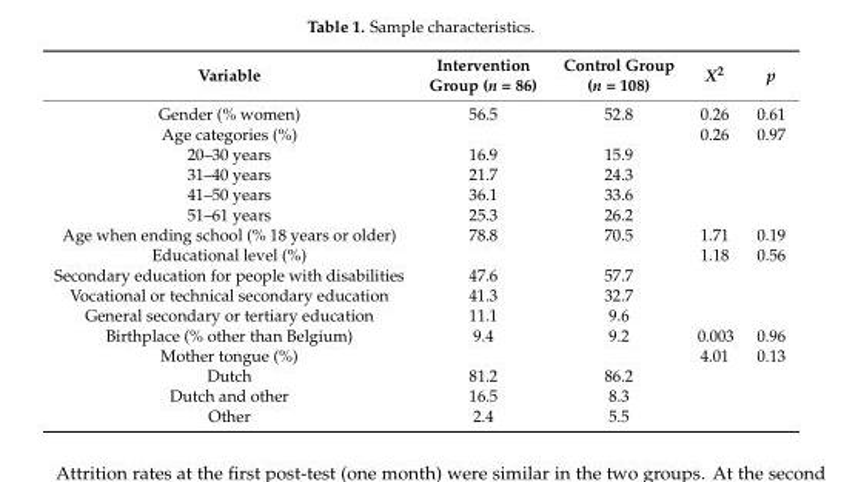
<table><thead><tr><td>Variable</td><td>Intervention Group (n = 86)</td><td>Control Group (n = 108)</td><td>X<sup>2</sup></td><td>p</td></tr></thead><tbody><tr><td>Gender (% women)</td><td>56.5</td><td>52.8</td><td>0.26</td><td>0.61</td></tr><tr><td>Age categories (%)</td><td></td><td></td><td>0.26</td><td>0.97</td></tr><tr><td>20–30 years</td><td>16.9</td><td>15.9</td><td></td><td></td></tr><tr><td>31–40 years</td><td>21.7</td><td>24.3</td><td></td><td></td></tr><tr><td>41–50 years</td><td>36.1</td><td>33.6</td><td></td><td></td></tr><tr><td>51–61 years</td><td>25.3</td><td>26.2</td><td></td><td></td></tr><tr><td>Age when ending school (% 18 years or older)</td><td>78.8</td><td>70.5</td><td>1.71</td><td>0.19</td></tr><tr><td>Educational level (%)</td><td></td><td></td><td>1.18</td><td>0.56</td></tr><tr><td>Secondary education for people with disabilities</td><td>47.6</td><td>57.7</td><td></td><td></td></tr><tr><td>Vocational or technical secondary education</td><td>41.3</td><td>32.7</td><td></td><td></td></tr><tr><td>General secondary or tertiary education</td><td>11.1</td><td>9.6</td><td></td><td></td></tr><tr><td>Birthplace (% other than Belgium)</td><td>9.4</td><td>9.2</td><td>0.003</td><td>0.96</td></tr><tr><td>Mother tongue (%)</td><td></td><td></td><td>4.01</td><td>0.13</td></tr><tr><td>Dutch</td><td>81.2</td><td>86.2</td><td></td><td></td></tr><tr><td>Dutch and other</td><td>16.5</td><td>8.3</td><td></td><td></td></tr><tr><td>Other</td><td>2.4</td><td>5.5</td><td></td><td></td></tr></tbody></table>